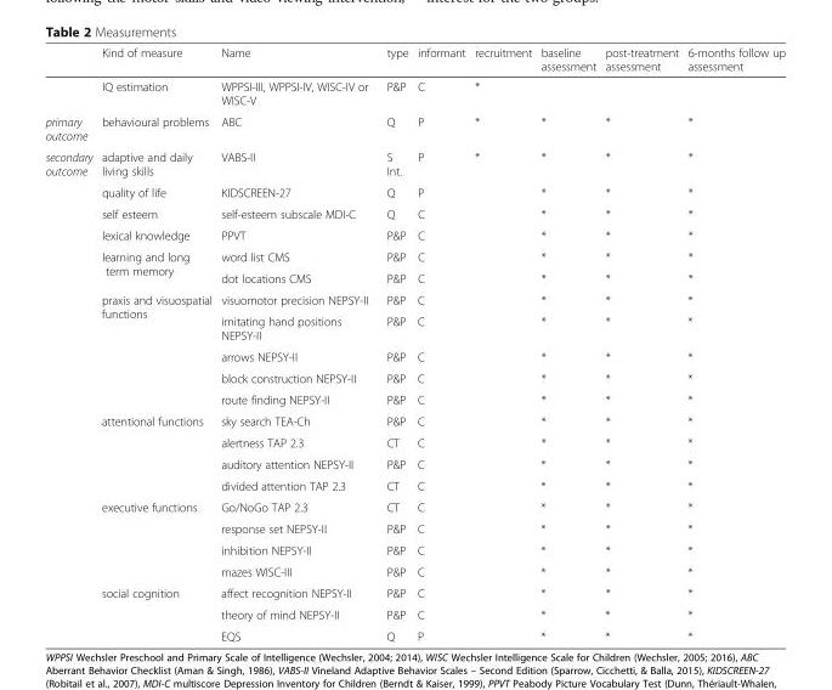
<table><thead><tr><td></td><td>Kind of measure</td><td>Name</td><td>type</td><td>informant</td><td>recruitment</td><td>baseline assessment</td><td>post-treatment assessment</td><td>6-months follow up assessment</td></tr></thead><tbody><tr><td></td><td>IQ estimation</td><td>WPPSI-III, WPPSI-IV, WISC-IV or WISC-V</td><td>P&amp;P</td><td>C</td><td>*</td><td></td><td></td><td></td></tr><tr><td>primary outcome</td><td>behavioural problems</td><td>ABC</td><td>Q</td><td>P</td><td>*</td><td>*</td><td>*</td><td>*</td></tr><tr><td rowspan="22">secondary outcome</td><td>adaptive and daily living skills</td><td>VABS-II</td><td>S Int.</td><td>P</td><td>*</td><td>*</td><td>*</td><td>*</td></tr><tr><td>quality of life</td><td>KIDSCREEN-27</td><td>Q</td><td>P</td><td></td><td>*</td><td>*</td><td>*</td></tr><tr><td>self esteem</td><td>self-esteem subscale MDI-C</td><td>Q</td><td>C</td><td></td><td>*</td><td>*</td><td>*</td></tr><tr><td>lexical knowledge</td><td>PPVT</td><td>P&amp;P</td><td>C</td><td></td><td>*</td><td>*</td><td>*</td></tr><tr><td rowspan="2">learning and long term memory</td><td>word list CMS</td><td>P&amp;P</td><td>C</td><td></td><td>*</td><td>*</td><td>*</td></tr><tr><td>dot locations CMS</td><td>P&amp;P</td><td>C</td><td></td><td>*</td><td>*</td><td>*</td></tr><tr><td rowspan="5">praxis and visuospatial functions</td><td>visuomotor precision NEPSY-II</td><td>P&amp;P</td><td>C</td><td></td><td>*</td><td>*</td><td>*</td></tr><tr><td>imitating hand positions NEPSY-II</td><td>P&amp;P</td><td>C</td><td></td><td>*</td><td>*</td><td>*</td></tr><tr><td>arrows NEPSY-II</td><td>P&amp;P</td><td>C</td><td></td><td>*</td><td>*</td><td>*</td></tr><tr><td>block construction NEPSY-II</td><td>P&amp;P</td><td>C</td><td></td><td>*</td><td>*</td><td>*</td></tr><tr><td>route finding NEPSY-II</td><td>P&amp;P</td><td>C</td><td></td><td>*</td><td>*</td><td>*</td></tr><tr><td rowspan="4">attentional functions</td><td>sky search TEA-Ch</td><td>P&amp;P</td><td>C</td><td></td><td>*</td><td>*</td><td>*</td></tr><tr><td>alertness TAP 2.3</td><td>CT</td><td>C</td><td></td><td>*</td><td>*</td><td>*</td></tr><tr><td>auditory attention NEPSY-II</td><td>P&amp;P</td><td>C</td><td></td><td>*</td><td>*</td><td>*</td></tr><tr><td>divided attention TAP 2.3</td><td>CT</td><td>C</td><td></td><td>*</td><td>*</td><td>*</td></tr><tr><td rowspan="4">executive functions</td><td>Go/NoGo TAP 2.3</td><td>CT</td><td>C</td><td></td><td>*</td><td>*</td><td>*</td></tr><tr><td>response set NEPSY-II</td><td>P&amp;P</td><td>C</td><td></td><td>*</td><td>*</td><td>*</td></tr><tr><td>inhibition NEPSY-II</td><td>P&amp;P</td><td>C</td><td></td><td>*</td><td>*</td><td>*</td></tr><tr><td>mazes WISC-III</td><td>P&amp;P</td><td>C</td><td></td><td>*</td><td>*</td><td>*</td></tr><tr><td rowspan="3">social cognition</td><td>affect recognition NEPSY-II</td><td>P&amp;P</td><td>C</td><td></td><td>*</td><td>*</td><td>*</td></tr><tr><td>theory of mind NEPSY-II</td><td>P&amp;P</td><td>C</td><td></td><td>*</td><td>*</td><td>*</td></tr><tr><td>EQS</td><td>Q</td><td>P</td><td></td><td>*</td><td>*</td><td>*</td></tr></tbody></table>